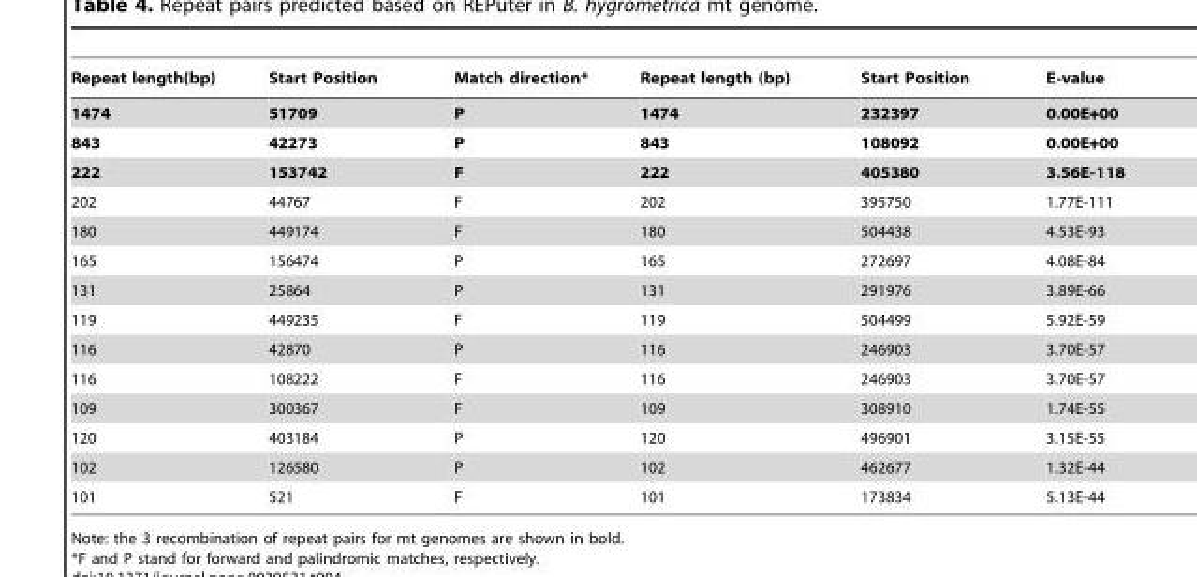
<table><thead><tr><td>Repeat length(bp)</td><td>Start Position</td><td>Match direction*</td><td>Repeat length (bp)</td><td>Start Position</td><td>E-value</td></tr></thead><tbody><tr><td>1474</td><td>51709</td><td>P</td><td>1474</td><td>232397</td><td>0.00E+00</td></tr><tr><td>843</td><td>42273</td><td>P</td><td>843</td><td>108092</td><td>0.00E+00</td></tr><tr><td>222</td><td>153742</td><td>F</td><td>222</td><td>405380</td><td>3.56E-118</td></tr><tr><td>202</td><td>44767</td><td>F</td><td>202</td><td>395750</td><td>1.77E-111</td></tr><tr><td>180</td><td>449174</td><td>F</td><td>180</td><td>504438</td><td>4.53E-93</td></tr><tr><td>165</td><td>156474</td><td>P</td><td>165</td><td>272697</td><td>4.08E-84</td></tr><tr><td>131</td><td>25864</td><td>P</td><td>131</td><td>291976</td><td>3.89E-66</td></tr><tr><td>119</td><td>449235</td><td>F</td><td>119</td><td>504499</td><td>5.92E-59</td></tr><tr><td>116</td><td>42870</td><td>P</td><td>116</td><td>246903</td><td>3.70E-57</td></tr><tr><td>116</td><td>108222</td><td>F</td><td>116</td><td>246903</td><td>3.70E-57</td></tr><tr><td>109</td><td>300367</td><td>F</td><td>109</td><td>308910</td><td>1.74E-55</td></tr><tr><td>120</td><td>403184</td><td>P</td><td>120</td><td>496901</td><td>3.15E-55</td></tr><tr><td>102</td><td>126580</td><td>P</td><td>102</td><td>462677</td><td>1.32E-44</td></tr><tr><td>101</td><td>521</td><td>F</td><td>101</td><td>173834</td><td>5.13E-44</td></tr></tbody></table>